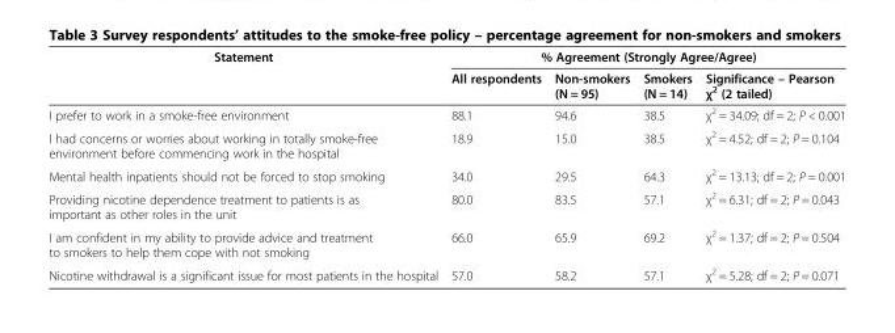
<table><thead><tr><td rowspan="2">Statement</td><td colspan="4">% Agreement (Strongly Agree/Agree)</td></tr><tr><td>All respondents</td><td>Non-smokers (N = 95)</td><td>Smokers (N = 14)</td><td>Significance – Pearson χ<sup>2</sup> (2 tailed)</td></tr></thead><tbody><tr><td>I prefer to work in a smoke-free environment</td><td>88.1</td><td>94.6</td><td>38.5</td><td>χ<sup>2</sup> = 34.09; df = 2; P &lt; 0.001</td></tr><tr><td>I had concerns or worries about working in totally smoke-free environment before commencing work in the hospital</td><td>18.9</td><td>15.0</td><td>38.5</td><td>χ<sup>2</sup> = 4.52; df = 2; P = 0.104</td></tr><tr><td>Mental health inpatients should not be forced to stop smoking</td><td>34.0</td><td>29.5</td><td>64.3</td><td>χ<sup>2</sup> = 13.13; df = 2; P = 0.001</td></tr><tr><td>Providing nicotine dependence treatment to patients is as important as other roles in the unit</td><td>80.0</td><td>83.5</td><td>57.1</td><td>χ<sup>2</sup> = 6.31; df = 2; P = 0.043</td></tr><tr><td>I am confident in my ability to provide advice and treatment to smokers to help them cope with not smoking</td><td>66.0</td><td>65.9</td><td>69.2</td><td>χ<sup>2</sup> = 1.37; df = 2; P = 0.504</td></tr><tr><td>Nicotine withdrawal is a significant issue for most patients in the hospital</td><td>57.0</td><td>58.2</td><td>57.1</td><td>χ<sup>2</sup> = 5.28; df = 2; P = 0.071</td></tr></tbody></table>